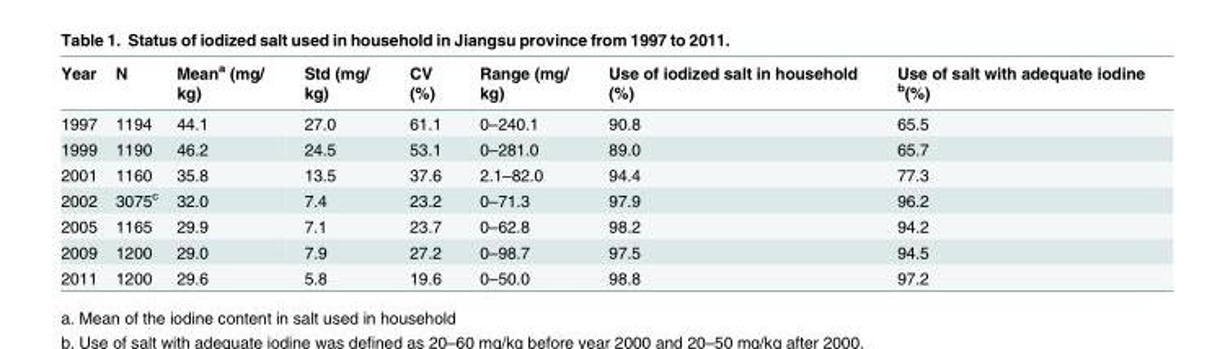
<table><thead><tr><td>Year</td><td>N</td><td>Mean<sup>a</sup> (mg/ kg)</td><td>Std (mg/ kg)</td><td>CV (%)</td><td>Range (mg/ kg)</td><td>Use of iodized salt in household (%)</td><td>Use of salt with adequate iodine <sup>b</sup>(%)</td></tr></thead><tbody><tr><td>1997</td><td>1194</td><td>44.1</td><td>27.0</td><td>61.1</td><td>0–240.1</td><td>90.8</td><td>65.5</td></tr><tr><td>1999</td><td>1190</td><td>46.2</td><td>24.5</td><td>53.1</td><td>0–281.0</td><td>89.0</td><td>65.7</td></tr><tr><td>2001</td><td>1160</td><td>35.8</td><td>13.5</td><td>37.6</td><td>2.1–82.0</td><td>94.4</td><td>77.3</td></tr><tr><td>2002</td><td>3075<sup>c</sup></td><td>32.0</td><td>7.4</td><td>23.2</td><td>0–71.3</td><td>97.9</td><td>96.2</td></tr><tr><td>2005</td><td>1165</td><td>29.9</td><td>7.1</td><td>23.7</td><td>0–62.8</td><td>98.2</td><td>94.2</td></tr><tr><td>2009</td><td>1200</td><td>29.0</td><td>7.9</td><td>27.2</td><td>0–98.7</td><td>97.5</td><td>94.5</td></tr><tr><td>2011</td><td>1200</td><td>29.6</td><td>5.8</td><td>19.6</td><td>0–50.0</td><td>98.8</td><td>97.2</td></tr></tbody></table>